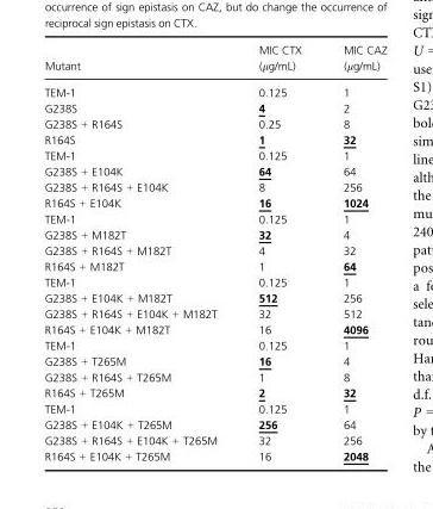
<table><thead><tr><td>Mutant</td><td>MIC CTX (μg/mL)</td><td>MIC CAZ (μg/mL)</td></tr></thead><tbody><tr><td>TEM-1</td><td>0.125</td><td>1</td></tr><tr><td>G238S</td><td>4</td><td>2</td></tr><tr><td>G238S + R164S</td><td>0.25</td><td>8</td></tr><tr><td>R164S</td><td>1</td><td>32</td></tr><tr><td>TEM-1</td><td>0.125</td><td>1</td></tr><tr><td>G238S + E104K</td><td>64</td><td>64</td></tr><tr><td>G238S + R164S + E104K</td><td>8</td><td>256</td></tr><tr><td>R164S + E104K</td><td>16</td><td>1024</td></tr><tr><td>TEM-1</td><td>0.125</td><td>1</td></tr><tr><td>G238S + M182T</td><td>32</td><td>4</td></tr><tr><td>G238S + R164S + M182T</td><td>4</td><td>32</td></tr><tr><td>R164S + M182T</td><td>1</td><td>64</td></tr><tr><td>TEM-1</td><td>0.125</td><td>1</td></tr><tr><td>G238S + E104K + M182T</td><td>512</td><td>256</td></tr><tr><td>G238S + R164S + E104K + M182T</td><td>32</td><td>512</td></tr><tr><td>R164S + E104K + M182T</td><td>16</td><td>4096</td></tr><tr><td>TEM-1</td><td>0.125</td><td>1</td></tr><tr><td>G238S + T265M</td><td>16</td><td>4</td></tr><tr><td>G238S + R164S + T265M</td><td>1</td><td>8</td></tr><tr><td>R164S + T265M</td><td>2</td><td>32</td></tr><tr><td>TEM-1</td><td>0.125</td><td>1</td></tr><tr><td>G238S + E104K + T265M</td><td>256</td><td>64</td></tr><tr><td>G238S + R164S + E104K + T265M</td><td>32</td><td>256</td></tr><tr><td>R164S + E104K + T265M</td><td>16</td><td>2048</td></tr></tbody></table>